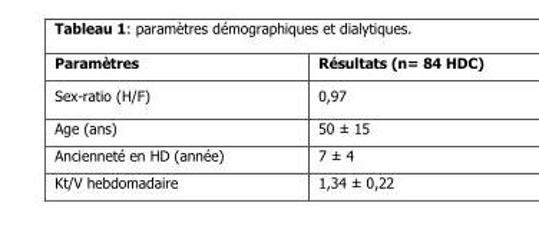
<table><thead><tr><td>Paramètres</td><td>Résultats (n= 84 HDC)</td></tr></thead><tbody><tr><td>Sex-ratio (H/F)</td><td>0,97</td></tr><tr><td>Age (ans)</td><td>50 ± 15</td></tr><tr><td>Ancienneté en HD (année)</td><td>7 ± 4</td></tr><tr><td>Kt/V hebdomadaire</td><td>1,34 ± 0,22</td></tr></tbody></table>